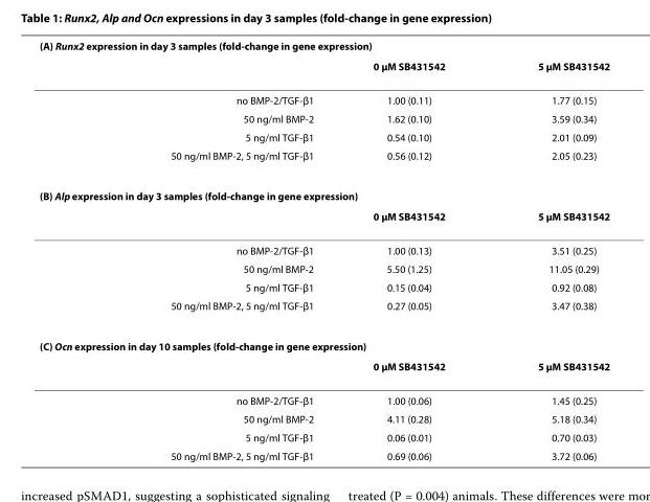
<table><thead><tr><td colspan="3">(A) Runx2 expression in day 3 samples (fold-change in gene expression)</td></tr><tr><td></td><td>0 μM SB431542</td><td>5 μM SB431542</td></tr></thead><tbody><tr><td>no BMP-2/TGF-β1</td><td>1.00 (0.11)</td><td>1.77 (0.15)</td></tr><tr><td>50 ng/ml BMP-2</td><td>1.62 (0.10)</td><td>3.59 (0.34)</td></tr><tr><td>5 ng/ml TGF-β1</td><td>0.54 (0.10)</td><td>2.01 (0.09)</td></tr><tr><td>50 ng/ml BMP-2, 5 ng/ml TGF-β1</td><td>0.56 (0.12)</td><td>2.05 (0.23)</td></tr><tr><td colspan="3">(B) Alp expression in day 3 samples (fold-change in gene expression)</td></tr><tr><td></td><td>0 μM SB431542</td><td>5 μM SB431542</td></tr><tr><td>no BMP-2/TGF-β1</td><td>1.00 (0.13)</td><td>3.51 (0.25)</td></tr><tr><td>50 ng/ml BMP-2</td><td>5.50 (1.25)</td><td>11.05 (0.29)</td></tr><tr><td>5 ng/ml TGF-β1</td><td>0.15 (0.04)</td><td>0.92 (0.08)</td></tr><tr><td>50 ng/ml BMP-2, 5 ng/ml TGF-β1</td><td>0.27 (0.05)</td><td>3.47 (0.38)</td></tr><tr><td colspan="3">(C) Ocn expression in day 10 samples (fold-change in gene expression)</td></tr><tr><td></td><td>0 μM SB431542</td><td>5 μM SB431542</td></tr><tr><td>no BMP-2/TGF-β1</td><td>1.00 (0.06)</td><td>1.45 (0.25)</td></tr><tr><td>50 ng/ml BMP-2</td><td>4.11 (0.28)</td><td>5.18 (0.34)</td></tr><tr><td>5 ng/ml TGF-β1</td><td>0.06 (0.01)</td><td>0.70 (0.03)</td></tr><tr><td>50 ng/ml BMP-2, 5 ng/ml TGF-β1</td><td>0.69 (0.06)</td><td>3.72 (0.06)</td></tr></tbody></table>